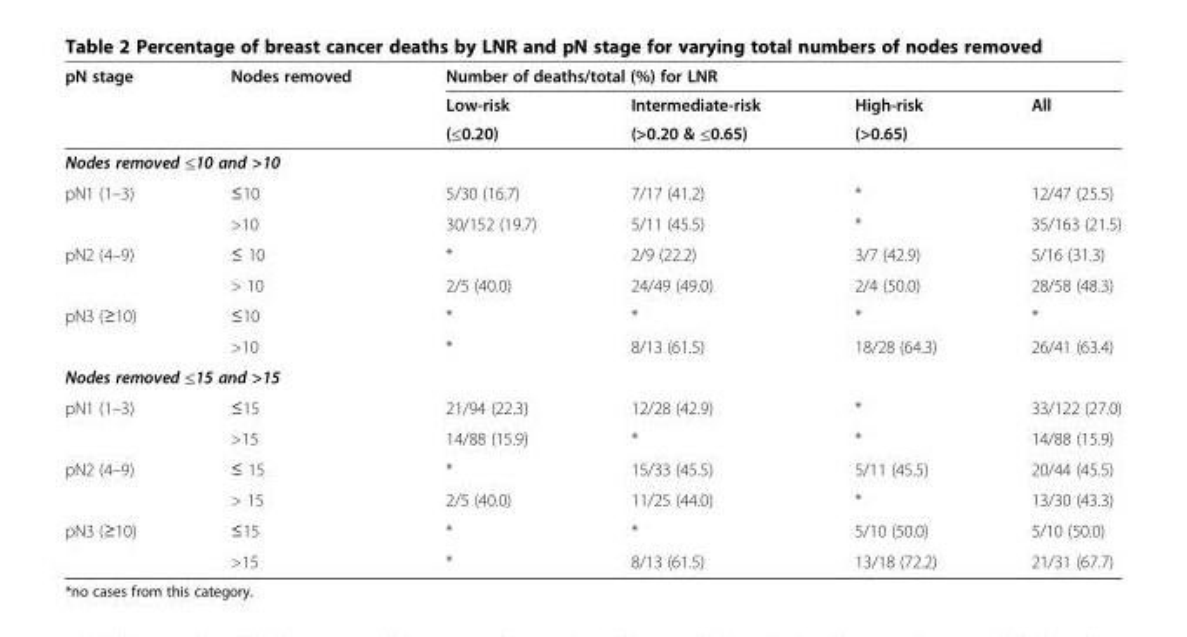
<table><thead><tr><td rowspan="3">pN stage</td><td rowspan="3">Nodes removed</td><td colspan="4">Number of deaths/total (%) for LNR</td></tr><tr><td rowspan="2">Low-risk (≤0.20)</td><td rowspan="2">Intermediate-risk (&gt;0.20 &amp; ≤0.65)</td><td rowspan="2">High-risk (&gt;0.65)</td><td rowspan="2">All</td></tr><tr></tr></thead><tbody><tr><td colspan="6">Nodes removed ≤10 and &gt;10</td></tr><tr><td rowspan="2">pN1 (1–3)</td><td>≤10</td><td>5/30 (16.7)</td><td>7/17 (41.2)</td><td>*</td><td>12/47 (25.5)</td></tr><tr><td>&gt;10</td><td>30/152 (19.7)</td><td>5/11 (45.5)</td><td>*</td><td>35/163 (21.5)</td></tr><tr><td rowspan="2">pN2 (4–9)</td><td>≤ 10</td><td>*</td><td>2/9 (22.2)</td><td>3/7 (42.9)</td><td>5/16 (31.3)</td></tr><tr><td>&gt; 10</td><td>2/5 (40.0)</td><td>24/49 (49.0)</td><td>2/4 (50.0)</td><td>28/58 (48.3)</td></tr><tr><td rowspan="2">pN3 (≥10)</td><td>≤10</td><td>*</td><td>*</td><td>*</td><td>*</td></tr><tr><td>&gt;10</td><td>*</td><td>8/13 (61.5)</td><td>18/28 (64.3)</td><td>26/41 (63.4)</td></tr><tr><td colspan="6">Nodes removed ≤15 and &gt;15</td></tr><tr><td rowspan="2">pN1 (1–3)</td><td>≤15</td><td>21/94 (22.3)</td><td>12/28 (42.9)</td><td>*</td><td>33/122 (27.0)</td></tr><tr><td>&gt;15</td><td>14/88 (15.9)</td><td>*</td><td>*</td><td>14/88 (15.9)</td></tr><tr><td rowspan="2">pN2 (4–9)</td><td>≤ 15</td><td>*</td><td>15/33 (45.5)</td><td>5/11 (45.5)</td><td>20/44 (45.5)</td></tr><tr><td>&gt; 15</td><td>2/5 (40.0)</td><td>11/25 (44.0)</td><td>*</td><td>13/30 (43.3)</td></tr><tr><td rowspan="2">pN3 (≥10)</td><td>≤15</td><td>*</td><td>*</td><td>5/10 (50.0)</td><td>5/10 (50.0)</td></tr><tr><td>&gt;15</td><td>*</td><td>8/13 (61.5)</td><td>13/18 (72.2)</td><td>21/31 (67.7)</td></tr></tbody></table>